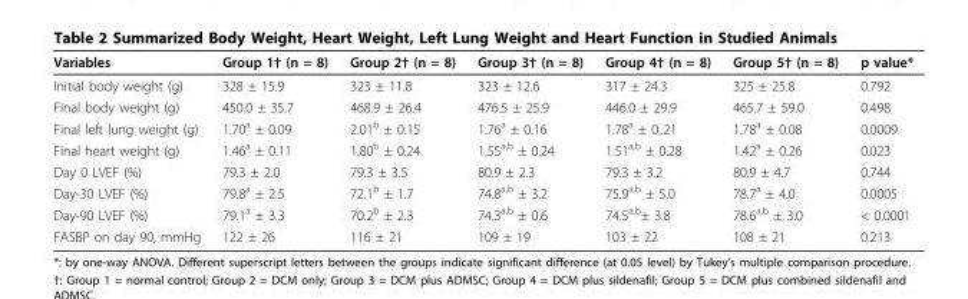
<table><thead><tr><td>Variables</td><td>Group 1† (n = 8)</td><td>Group 2† (n = 8)</td><td>Group 3† (n = 8)</td><td>Group 4† (n = 8)</td><td>Group 5† (n = 8)</td><td>p value*</td></tr></thead><tbody><tr><td>Initial body weight (g)</td><td>328 ± 15.9</td><td>323 ± 11.8</td><td>323 ± 12.6</td><td>317 ± 24.3</td><td>325 ± 25.8</td><td>0.792</td></tr><tr><td>Final body weight (g)</td><td>450.0 ± 35.7</td><td>468.9 ± 26.4</td><td>476.5 ± 25.9</td><td>446.0 ± 29.9</td><td>465.7 ± 59.0</td><td>0.498</td></tr><tr><td>Final left lung weight (g)</td><td>1.70<sup>a</sup> ± 0.09</td><td>2.01<sup>b</sup> ± 0.15</td><td>1.76<sup>a</sup> ± 0.16</td><td>1.78<sup>a</sup> ± 0..21</td><td>1.78<sup>a</sup> ± 0.08</td><td>0.0009</td></tr><tr><td>Final heart weight (g)</td><td>1.46<sup>a</sup> ± 0.11</td><td>1.80<sup>b</sup> ± 0.24</td><td>1.55<sup>a,b</sup> ± 0.24</td><td>1.51<sup>a,b</sup> ± 0.28</td><td>1.42<sup>a</sup> ± 0.26</td><td>0.023</td></tr><tr><td>Day 0 LVEF (%)</td><td>79.3 ± 2.0</td><td>79.3 ± 3.5</td><td>80.9 ± 2.3</td><td>79.3 ± 3.2</td><td>80.9 ± 4.7</td><td>0.744</td></tr><tr><td>Day-30 LVEF (%)</td><td>79.8<sup>a</sup> ± 2.5</td><td>72.1<sup>b</sup> ± 1.7</td><td>74.8<sup>a,b</sup> ± 3.2</td><td>75.9<sup>a,b</sup> ± 5.0</td><td>78.7<sup>a</sup> ± 4.0</td><td>0.0005</td></tr><tr><td>Day-90 LVEF (%)</td><td>79.1<sup>a</sup> ± 3.3</td><td>70.2<sup>b</sup> ± 2.3</td><td>74.3<sup>a,b</sup> ± 0.6</td><td>74.5<sup>a,b</sup>± 3.8</td><td>78.6<sup>a,b</sup> ± 3.0</td><td>&lt; 0.0001</td></tr><tr><td>FASBP on day 90, mmHg</td><td>122 ± 26</td><td>116 ± 21</td><td>109 ± 19</td><td>103 ± 22</td><td>108 ± 21</td><td>0.213</td></tr></tbody></table>